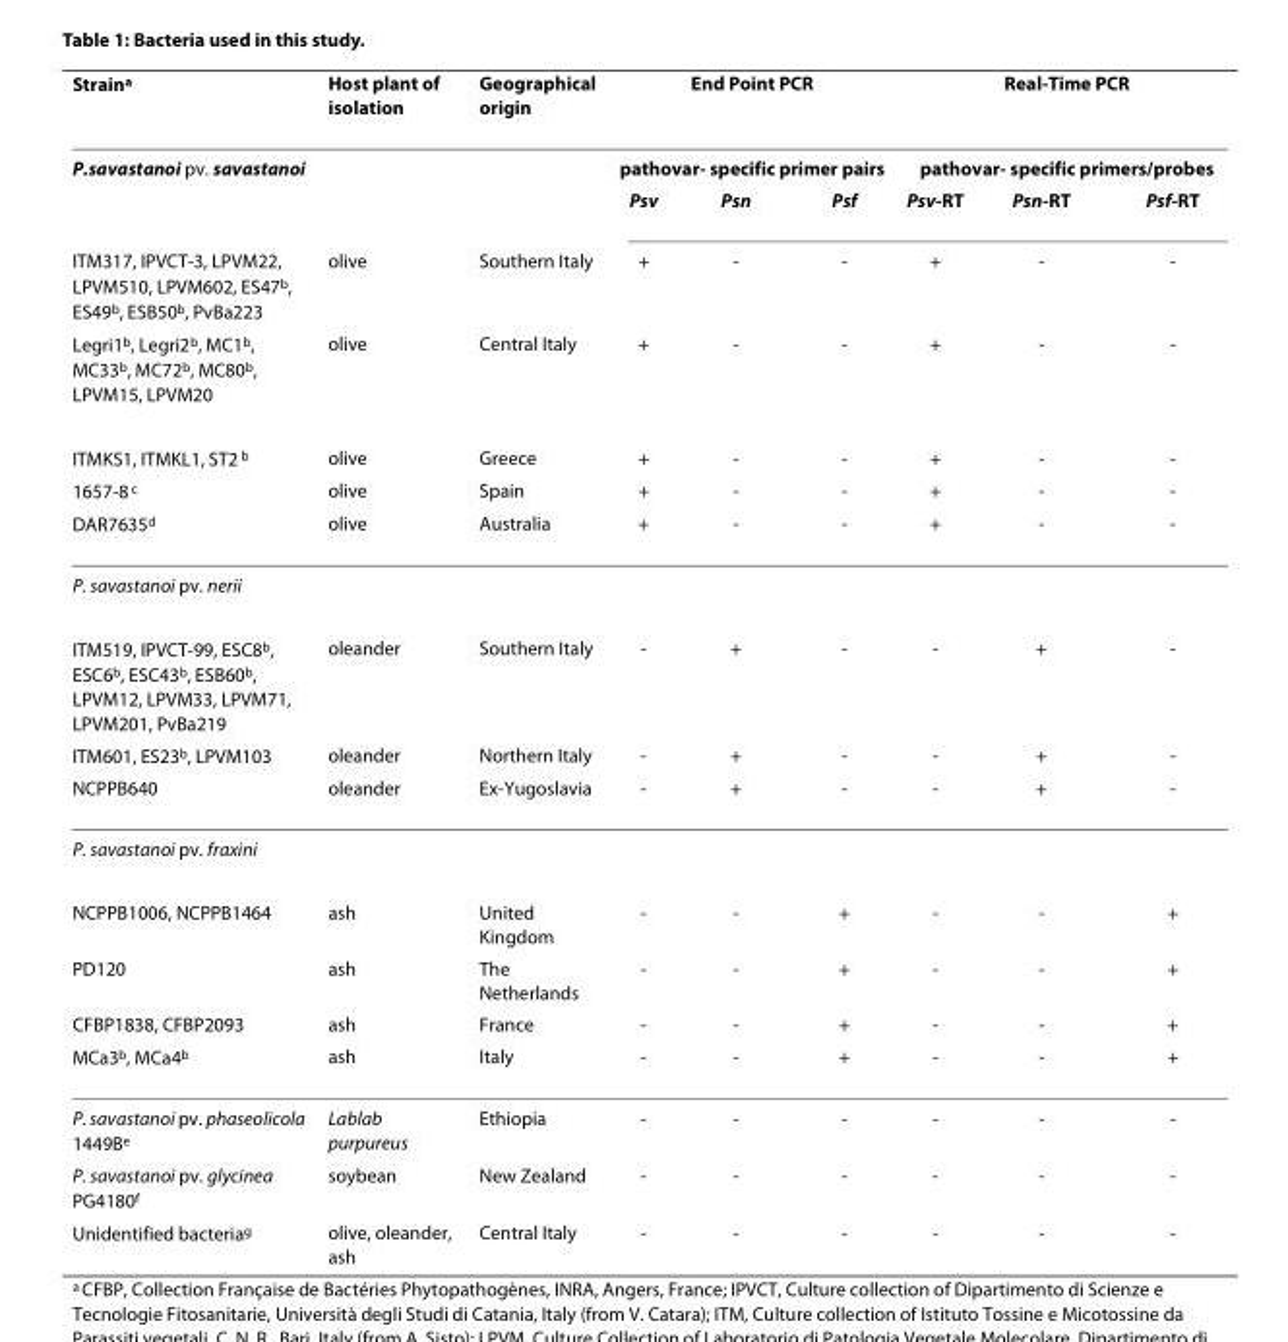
<table><thead><tr><td rowspan="3">Strain<sup>a</sup> P.savastanoi pv. savastanoi</td><td rowspan="3">Host plant of isolation</td><td rowspan="3">Geographical origin</td><td rowspan="2" colspan="3">End Point PCR pathovar- specific primer pairs</td><td rowspan="2" colspan="3">Real-Time PCR pathovar- specific primers/probes</td></tr><tr></tr><tr><td>Psv</td><td>Psn</td><td>Psf</td><td>Psv-RT</td><td>Psn-RT</td><td>Psf-RT</td></tr></thead><tbody><tr><td>ITM317, IPVCT-3, LPVM22, LPVM510, LPVM602, ES47<sup>b</sup>, ES49<sup>b</sup>, ESB50<sup>b</sup>, PvBa223</td><td>olive</td><td>Southern Italy</td><td>+</td><td>-</td><td>-</td><td>+</td><td>-</td><td>-</td></tr><tr><td>Legri1<sup>b</sup>, Legri2<sup>b</sup>, MC1<sup>b</sup>, MC33<sup>b</sup>, MC72<sup>b</sup>, MC80<sup>b</sup>, LPVM15, LPVM20</td><td>olive</td><td>Central Italy</td><td>+</td><td>-</td><td>-</td><td>+</td><td>-</td><td>-</td></tr><tr><td>ITMKS1, ITMKL1, ST2 <sup>b</sup></td><td>olive</td><td>Greece</td><td>+</td><td>-</td><td>-</td><td>+</td><td>-</td><td>-</td></tr><tr><td>1657-8 <sup>c</sup></td><td>olive</td><td>Spain</td><td>+</td><td>-</td><td>-</td><td>+</td><td>-</td><td>-</td></tr><tr><td>DAR7635<sup>d</sup></td><td>olive</td><td>Australia</td><td>+</td><td>-</td><td>-</td><td>+</td><td>-</td><td>-</td></tr><tr><td colspan="9">P. savastanoi pv. nerii</td></tr><tr><td>ITM519, IPVCT-99, ESC8<sup>b</sup>, ESC6<sup>b</sup>, ESC43<sup>b</sup>, ESB60<sup>b</sup>, LPVM12, LPVM33, LPVM71, LPVM201, PvBa219</td><td>oleander</td><td>Southern Italy</td><td>-</td><td>+</td><td>-</td><td>-</td><td>+</td><td>-</td></tr><tr><td>ITM601, ES23<sup>b</sup>, LPVM103</td><td>oleander</td><td>Northern Italy</td><td>-</td><td>+</td><td>-</td><td>-</td><td>+</td><td>-</td></tr><tr><td>NCPPB640</td><td>oleander</td><td>Ex-Yugoslavia</td><td>-</td><td>+</td><td>-</td><td>-</td><td>+</td><td>-</td></tr><tr><td colspan="9">P. savastanoi pv. fraxini</td></tr><tr><td>NCPPB1006, NCPPB1464</td><td>ash</td><td>United Kingdom</td><td>-</td><td>-</td><td>+</td><td>-</td><td>-</td><td>+</td></tr><tr><td>PD120</td><td>ash</td><td>The Netherlands</td><td>-</td><td>-</td><td>+</td><td>-</td><td>-</td><td>+</td></tr><tr><td>CFBP1838, CFBP2093</td><td>ash</td><td>France</td><td>-</td><td>-</td><td>+</td><td>-</td><td>-</td><td>+</td></tr><tr><td>MCa3<sup>b</sup>, MCa4<sup>b</sup></td><td>ash</td><td>Italy</td><td>-</td><td>-</td><td>+</td><td>-</td><td>-</td><td>+</td></tr><tr><td>P. savastanoi pv. phaseolicola 1449B<sup>e</sup></td><td>Lablab purpureus</td><td>Ethiopia</td><td>-</td><td>-</td><td>-</td><td>-</td><td>-</td><td>-</td></tr><tr><td>P. savastanoi pv. glycinea PG4180<sup>f</sup></td><td>soybean</td><td>New Zealand</td><td>-</td><td>-</td><td>-</td><td>-</td><td>-</td><td>-</td></tr><tr><td>Unidentified bacteria<sup>g</sup></td><td>olive, oleander, ash</td><td>Central Italy</td><td>-</td><td>-</td><td>-</td><td>-</td><td>-</td><td>-</td></tr></tbody></table>